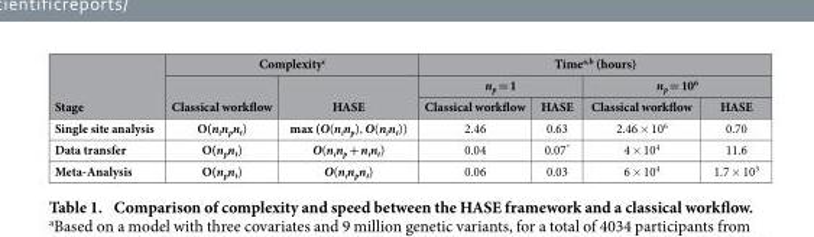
<table><thead><tr><td rowspan="3">Stage</td><td colspan="2">Complexity<sup>c</sup></td><td colspan="4">Time<sup>a,b</sup> (hours)</td></tr><tr><td rowspan="2">Classical workflow</td><td rowspan="2">HASE</td><td colspan="2">n<sub>p</sub> = 1</td><td colspan="2">n<sub>p</sub> = 10<sup>6</sup></td></tr><tr><td>Classical workflow</td><td>HASE</td><td>Classical workflow</td><td>HASE</td></tr></thead><tbody><tr><td>Single site analysis</td><td>O(n<sub>i</sub>n<sub>p</sub>n<sub>t</sub>)</td><td>max (O(ninp), O(nint))</td><td>2.46</td><td>0.63</td><td>2.46 × 10<sup>6</sup></td><td>0.70</td></tr><tr><td>Data transfer</td><td>O(n<sub>p</sub>n<sub>t</sub>)</td><td>O(ninp + nint)</td><td>0.04</td><td>0.07*</td><td>4 × 10<sup>4</sup></td><td>11.6</td></tr><tr><td>Meta-Analysis</td><td>O(n<sub>p</sub>n<sub>t</sub>)</td><td>O(n<sub>i</sub>n<sub>p</sub>n<sub>t</sub>)</td><td>0.06</td><td>0.03</td><td>6 × 10<sup>4</sup></td><td>1.7 × 10<sup>3</sup></td></tr></tbody></table>